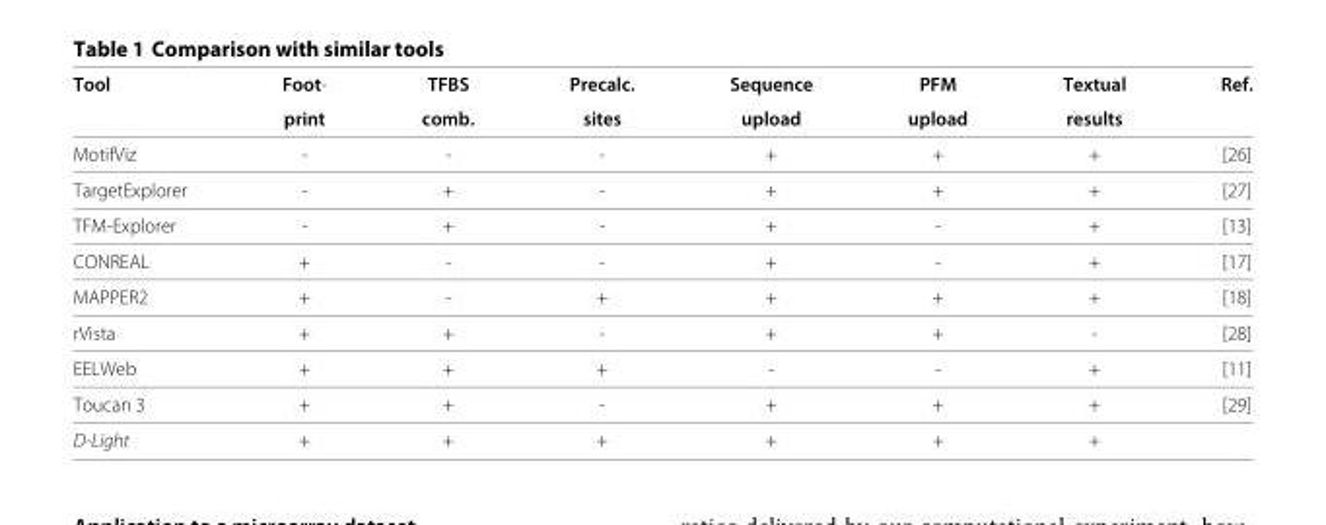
<table><thead><tr><td rowspan="2">Tool</td><td rowspan="2">Foot- print</td><td rowspan="2">TFBS comb.</td><td rowspan="2">Precalc. sites</td><td rowspan="2">Sequence upload</td><td rowspan="2">PFM upload</td><td rowspan="2">Textual results</td><td rowspan="2">Ref.</td></tr><tr></tr></thead><tbody><tr><td>MotifViz</td><td>-</td><td>-</td><td>-</td><td>+</td><td>+</td><td>+</td><td>[26]</td></tr><tr><td>TargetExplorer</td><td>-</td><td>+</td><td>-</td><td>+</td><td>+</td><td>+</td><td>[27]</td></tr><tr><td>TFM-Explorer</td><td>-</td><td>+</td><td>-</td><td>+</td><td>-</td><td>+</td><td>[13]</td></tr><tr><td>CONREAL</td><td>+</td><td>-</td><td>-</td><td>+</td><td>-</td><td>+</td><td>[17]</td></tr><tr><td>MAPPER2</td><td>+</td><td>-</td><td>+</td><td>+</td><td>+</td><td>+</td><td>[18]</td></tr><tr><td>rVista</td><td>+</td><td>+</td><td>-</td><td>+</td><td>+</td><td>-</td><td>[28]</td></tr><tr><td>EELWeb</td><td>+</td><td>+</td><td>+</td><td>-</td><td>-</td><td>+</td><td>[11]</td></tr><tr><td>Toucan 3</td><td>+</td><td>+</td><td>-</td><td>+</td><td>+</td><td>+</td><td>[29]</td></tr><tr><td>D-Light</td><td>+</td><td>+</td><td>+</td><td>+</td><td>+</td><td>+</td><td></td></tr></tbody></table>